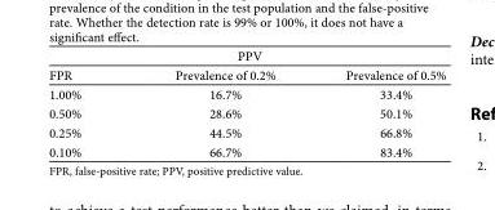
<table><thead><tr><td colspan="3">PPV</td></tr><tr><td>FPR</td><td>Prevalence of 0.2%</td><td>Prevalence of 0.5%</td></tr></thead><tbody><tr><td>1.00%</td><td>16.7%</td><td>33.4%</td></tr><tr><td>0.50%</td><td>28.6%</td><td>50.1%</td></tr><tr><td>0.25%</td><td>44.5%</td><td>66.8%</td></tr><tr><td>0.10%</td><td>66.7%</td><td>83.4%</td></tr></tbody></table>